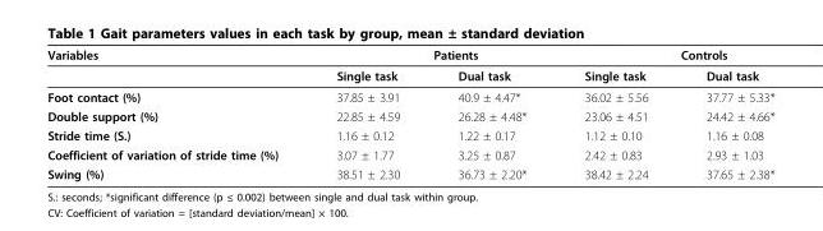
<table><thead><tr><td rowspan="2">Variables</td><td colspan="2">Patients</td><td colspan="2">Controls</td></tr><tr><td>Single task</td><td>Dual task</td><td>Single task</td><td>Dual task</td></tr></thead><tbody><tr><td>Foot contact (%)</td><td>37.85 ± 3.91</td><td>40.9 ± 4.47*</td><td>36.02 ± 5.56</td><td>37.77 ± 5.33*</td></tr><tr><td>Double support (%)</td><td>22.85 ± 4.59</td><td>26.28 ± 4.48*</td><td>23.06 ± 4.51</td><td>24.42 ± 4.66*</td></tr><tr><td>Stride time (S.)</td><td>1.16 ± 0.12</td><td>1.22 ± 0.17</td><td>1.12 ± 0.10</td><td>1.16 ± 0.08</td></tr><tr><td>Coefficient of variation of stride time (%)</td><td>3.07 ± 1.77</td><td>3.25 ± 0.87</td><td>2.42 ± 0.83</td><td>2.93 ± 1.03</td></tr><tr><td>Swing (%)</td><td>38.51 ± 2.30</td><td>36.73 ± 2.20*</td><td>38.42 ± 2.24</td><td>37.65 ± 2.38*</td></tr></tbody></table>